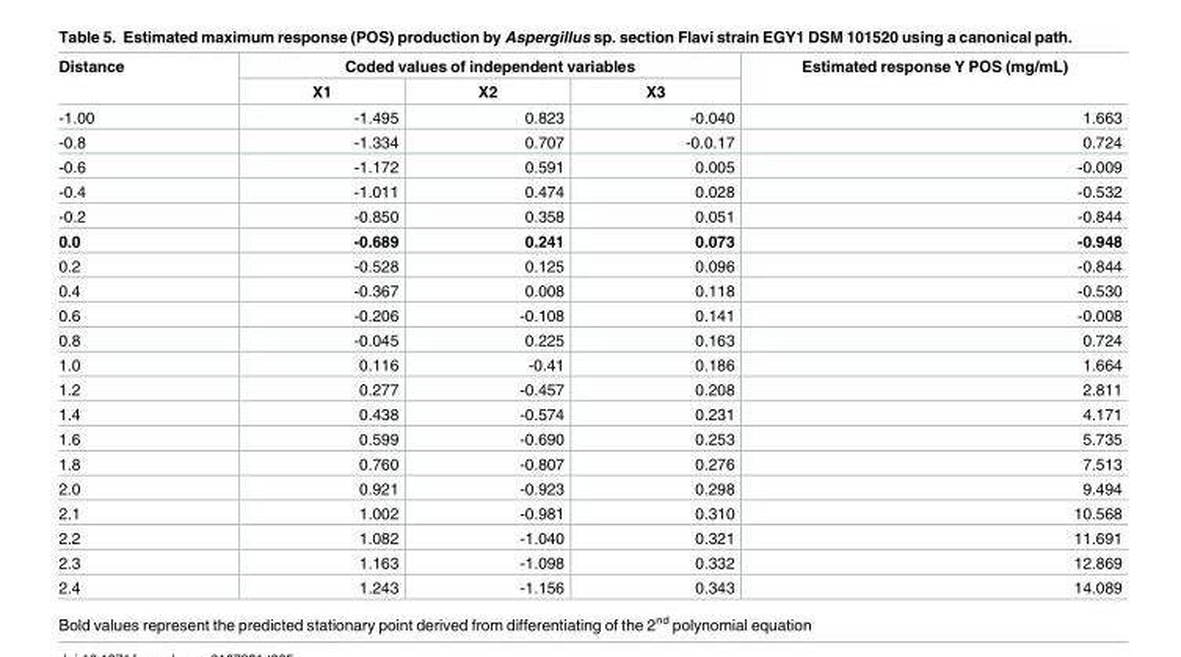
<table><thead><tr><td rowspan="2">Distance</td><td colspan="3">Coded values of independent variables</td><td rowspan="2">Estimated response Y POS (mg/mL)</td></tr><tr><td>X1</td><td>X2</td><td>X3</td></tr></thead><tbody><tr><td>-1.00</td><td>-1.495</td><td>0.823</td><td>-0.040</td><td>1.663</td></tr><tr><td>-0.8</td><td>-1.334</td><td>0.707</td><td>-0.0.17</td><td>0.724</td></tr><tr><td>-0.6</td><td>-1.172</td><td>0.591</td><td>0.005</td><td>-0.009</td></tr><tr><td>-0.4</td><td>-1.011</td><td>0.474</td><td>0.028</td><td>-0.532</td></tr><tr><td>-0.2</td><td>-0.850</td><td>0.358</td><td>0.051</td><td>-0.844</td></tr><tr><td>0.0</td><td>-0.689</td><td>0.241</td><td>0.073</td><td>-0.948</td></tr><tr><td>0.2</td><td>-0.528</td><td>0.125</td><td>0.096</td><td>-0.844</td></tr><tr><td>0.4</td><td>-0.367</td><td>0.008</td><td>0.118</td><td>-0.530</td></tr><tr><td>0.6</td><td>-0.206</td><td>-0.108</td><td>0.141</td><td>-0.008</td></tr><tr><td>0.8</td><td>-0.045</td><td>0.225</td><td>0.163</td><td>0.724</td></tr><tr><td>1.0</td><td>0.116</td><td>-0.41</td><td>0.186</td><td>1.664</td></tr><tr><td>1.2</td><td>0.277</td><td>-0.457</td><td>0.208</td><td>2.811</td></tr><tr><td>1.4</td><td>0.438</td><td>-0.574</td><td>0.231</td><td>4.171</td></tr><tr><td>1.6</td><td>0.599</td><td>-0.690</td><td>0.253</td><td>5.735</td></tr><tr><td>1.8</td><td>0.760</td><td>-0.807</td><td>0.276</td><td>7.513</td></tr><tr><td>2.0</td><td>0.921</td><td>-0.923</td><td>0.298</td><td>9.494</td></tr><tr><td>2.1</td><td>1.002</td><td>-0.981</td><td>0.310</td><td>10.568</td></tr><tr><td>2.2</td><td>1.082</td><td>-1.040</td><td>0.321</td><td>11.691</td></tr><tr><td>2.3</td><td>1.163</td><td>-1.098</td><td>0.332</td><td>12.869</td></tr><tr><td>2.4</td><td>1.243</td><td>-1.156</td><td>0.343</td><td>14.089</td></tr></tbody></table>